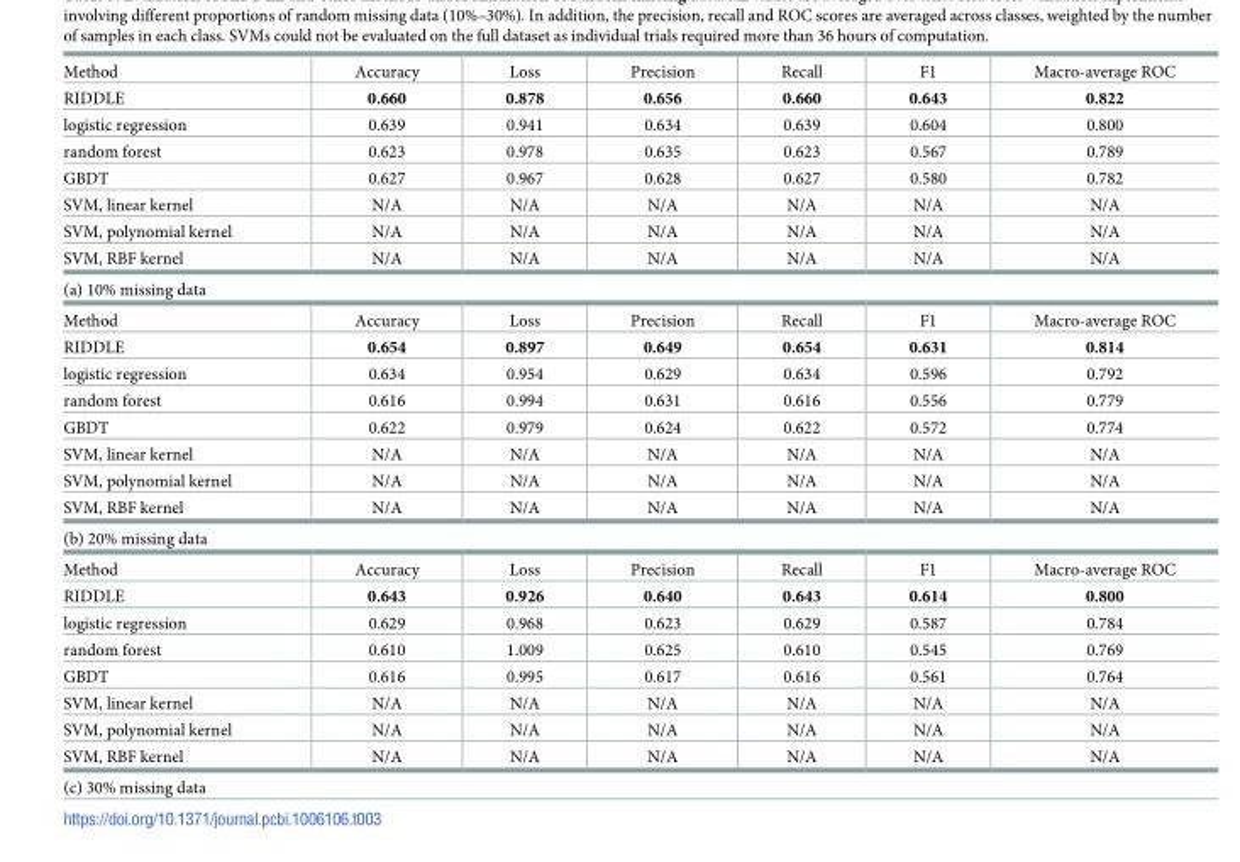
<table><tbody><tr><td>Method</td><td>Accuracy</td><td>Loss</td><td>Precision</td><td>Recall</td><td>F1</td><td>Macro-average ROC</td></tr><tr><td>RIDDLE</td><td>0.660</td><td>0.878</td><td>0.656</td><td>0.660</td><td>0.643</td><td>0.822</td></tr><tr><td>logistic regression</td><td>0.639</td><td>0.941</td><td>0.634</td><td>0.639</td><td>0.604</td><td>0.800</td></tr><tr><td>random forest</td><td>0.623</td><td>0.978</td><td>0.635</td><td>0.623</td><td>0.567</td><td>0.789</td></tr><tr><td>GBDT</td><td>0.627</td><td>0.967</td><td>0.628</td><td>0.627</td><td>0.580</td><td>0.782</td></tr><tr><td>SVM, linear kernel</td><td>N/A</td><td>N/A</td><td>N/A</td><td>N/A</td><td>N/A</td><td>N/A</td></tr><tr><td>SVM, polynomial kernel</td><td>N/A</td><td>N/A</td><td>N/A</td><td>N/A</td><td>N/A</td><td>N/A</td></tr><tr><td>SVM, RBF kernel</td><td>N/A</td><td>N/A</td><td>N/A</td><td>N/A</td><td>N/A</td><td>N/A</td></tr><tr><td colspan="7">(a) 10% missing data</td></tr><tr><td>Method</td><td>Accuracy</td><td>Loss</td><td>Precision</td><td>Recall</td><td>F1</td><td>Macro-average ROC</td></tr><tr><td>RIDDLE</td><td>0.654</td><td>0.897</td><td>0.649</td><td>0.654</td><td>0.631</td><td>0.814</td></tr><tr><td>logistic regression</td><td>0.634</td><td>0.954</td><td>0.629</td><td>0.634</td><td>0.596</td><td>0.792</td></tr><tr><td>random forest</td><td>0.616</td><td>0.994</td><td>0.631</td><td>0.616</td><td>0.556</td><td>0.779</td></tr><tr><td>GBDT</td><td>0.622</td><td>0.979</td><td>0.624</td><td>0.622</td><td>0.572</td><td>0.774</td></tr><tr><td>SVM, linear kernel</td><td>N/A</td><td>N/A</td><td>N/A</td><td>N/A</td><td>N/A</td><td>N/A</td></tr><tr><td>SVM, polynomial kernel</td><td>N/A</td><td>N/A</td><td>N/A</td><td>N/A</td><td>N/A</td><td>N/A</td></tr><tr><td>SVM, RBF kernel</td><td>N/A</td><td>N/A</td><td>N/A</td><td>N/A</td><td>N/A</td><td>N/A</td></tr><tr><td colspan="7">(b) 20% missing data</td></tr><tr><td>Method</td><td>Accuracy</td><td>Loss</td><td>Precision</td><td>Recall</td><td>F1</td><td>Macro-average ROC</td></tr><tr><td>RIDDLE</td><td>0.643</td><td>0.926</td><td>0.640</td><td>0.643</td><td>0.614</td><td>0.800</td></tr><tr><td>logistic regression</td><td>0.629</td><td>0.968</td><td>0.623</td><td>0.629</td><td>0.587</td><td>0.784</td></tr><tr><td>random forest</td><td>0.610</td><td>1.009</td><td>0.625</td><td>0.610</td><td>0.545</td><td>0.769</td></tr><tr><td>GBDT</td><td>0.616</td><td>0.995</td><td>0.617</td><td>0.616</td><td>0.561</td><td>0.764</td></tr><tr><td>SVM, linear kernel</td><td>N/A</td><td>N/A</td><td>N/A</td><td>N/A</td><td>N/A</td><td>N/A</td></tr><tr><td>SVM, polynomial kernel</td><td>N/A</td><td>N/A</td><td>N/A</td><td>N/A</td><td>N/A</td><td>N/A</td></tr><tr><td>SVM, RBF kernel</td><td>N/A</td><td>N/A</td><td>N/A</td><td>N/A</td><td>N/A</td><td>N/A</td></tr><tr><td colspan="7">(c) 30% missing data</td></tr></tbody></table>